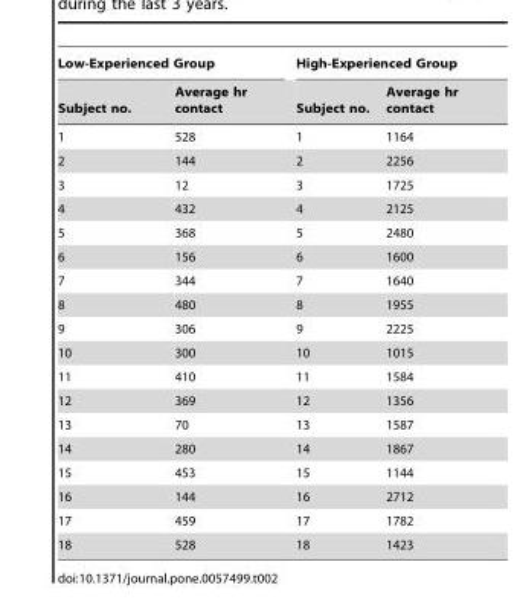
<table><thead><tr><td colspan="2">Low-Experienced Group</td><td colspan="2">High-Experienced Group</td></tr><tr><td>Subject no.</td><td>Average hr contact</td><td>Subject no.</td><td>Average hr contact</td></tr></thead><tbody><tr><td>1</td><td>528</td><td>1</td><td>1164</td></tr><tr><td>2</td><td>144</td><td>2</td><td>2256</td></tr><tr><td>3</td><td>12</td><td>3</td><td>1725</td></tr><tr><td>4</td><td>432</td><td>4</td><td>2125</td></tr><tr><td>5</td><td>368</td><td>5</td><td>2480</td></tr><tr><td>6</td><td>156</td><td>6</td><td>1600</td></tr><tr><td>7</td><td>344</td><td>7</td><td>1640</td></tr><tr><td>8</td><td>480</td><td>8</td><td>1955</td></tr><tr><td>9</td><td>306</td><td>9</td><td>2225</td></tr><tr><td>10</td><td>300</td><td>10</td><td>1015</td></tr><tr><td>11</td><td>410</td><td>11</td><td>1584</td></tr><tr><td>12</td><td>369</td><td>12</td><td>1356</td></tr><tr><td>13</td><td>70</td><td>13</td><td>1587</td></tr><tr><td>14</td><td>280</td><td>14</td><td>1867</td></tr><tr><td>15</td><td>453</td><td>15</td><td>1144</td></tr><tr><td>16</td><td>144</td><td>16</td><td>2712</td></tr><tr><td>17</td><td>459</td><td>17</td><td>1782</td></tr><tr><td>18</td><td>528</td><td>18</td><td>1423</td></tr></tbody></table>